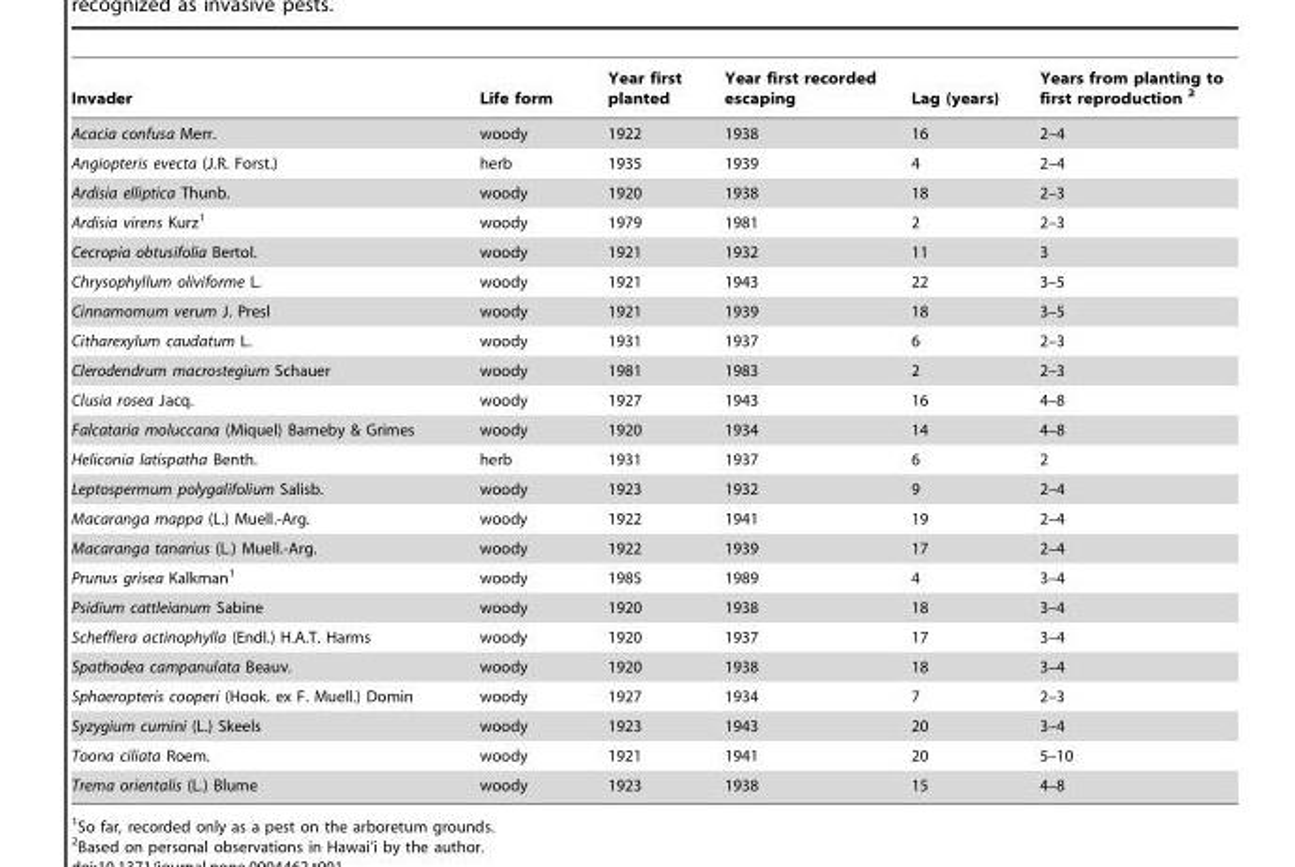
<table><thead><tr><td>Invader</td><td>Life form</td><td>Year first planted</td><td>Year first recorded escaping</td><td>Lag (years)</td><td>Years from planting to first reproduction 2</td></tr></thead><tbody><tr><td>Acacia confusa Merr.</td><td>woody</td><td>1922</td><td>1938</td><td>16</td><td>2–4</td></tr><tr><td>Angiopteris evecta (J.R. Forst.)</td><td>herb</td><td>1935</td><td>1939</td><td>4</td><td>2–4</td></tr><tr><td>Ardisia elliptica Thunb.</td><td>woody</td><td>1920</td><td>1938</td><td>18</td><td>2–3</td></tr><tr><td>Ardisia virens Kurz<sup>1</sup></td><td>woody</td><td>1979</td><td>1981</td><td>2</td><td>2–3</td></tr><tr><td>Cecropia obtusifolia Bertol.</td><td>woody</td><td>1921</td><td>1932</td><td>11</td><td>3</td></tr><tr><td>Chrysophyllum oliviforme L.</td><td>woody</td><td>1921</td><td>1943</td><td>22</td><td>3–5</td></tr><tr><td>Cinnamomum verum J. Presl</td><td>woody</td><td>1921</td><td>1939</td><td>18</td><td>3–5</td></tr><tr><td>Citharexylum caudatum L.</td><td>woody</td><td>1931</td><td>1937</td><td>6</td><td>2–3</td></tr><tr><td>Clerodendrum macrostegium Schauer</td><td>woody</td><td>1981</td><td>1983</td><td>2</td><td>2–3</td></tr><tr><td>Clusia rosea Jacq.</td><td>woody</td><td>1927</td><td>1943</td><td>16</td><td>4–8</td></tr><tr><td>Falcataria moluccana (Miquel) Barneby &amp; Grimes</td><td>woody</td><td>1920</td><td>1934</td><td>14</td><td>4–8</td></tr><tr><td>Heliconia latispatha Benth.</td><td>herb</td><td>1931</td><td>1937</td><td>6</td><td>2</td></tr><tr><td>Leptospermum polygalifolium Salisb.</td><td>woody</td><td>1923</td><td>1932</td><td>9</td><td>2–4</td></tr><tr><td>Macaranga mappa (L.) Muell.-Arg.</td><td>woody</td><td>1922</td><td>1941</td><td>19</td><td>2–4</td></tr><tr><td>Macaranga tanarius (L.) Muell.-Arg.</td><td>woody</td><td>1922</td><td>1939</td><td>17</td><td>2–4</td></tr><tr><td>Prunus grisea Kalkman<sup>1</sup></td><td>woody</td><td>1985</td><td>1989</td><td>4</td><td>3–4</td></tr><tr><td>Psidium cattleianum Sabine</td><td>woody</td><td>1920</td><td>1938</td><td>18</td><td>3–4</td></tr><tr><td>Schefflera actinophylla (Endl.) H.A.T. Harms</td><td>woody</td><td>1920</td><td>1937</td><td>17</td><td>3–4</td></tr><tr><td>Spathodea campanulata Beauv.</td><td>woody</td><td>1920</td><td>1938</td><td>18</td><td>3–4</td></tr><tr><td>Sphaeropteris cooperi (Hook. ex F. Muell.) Domin</td><td>woody</td><td>1927</td><td>1934</td><td>7</td><td>2–3</td></tr><tr><td>Syzygium cumini (L.) Skeels</td><td>woody</td><td>1923</td><td>1943</td><td>20</td><td>3–4</td></tr><tr><td>Toona ciliata Roem.</td><td>woody</td><td>1921</td><td>1941</td><td>20</td><td>5–10</td></tr><tr><td>Trema orientalis (L.) Blume</td><td>woody</td><td>1923</td><td>1938</td><td>15</td><td>4–8</td></tr></tbody></table>